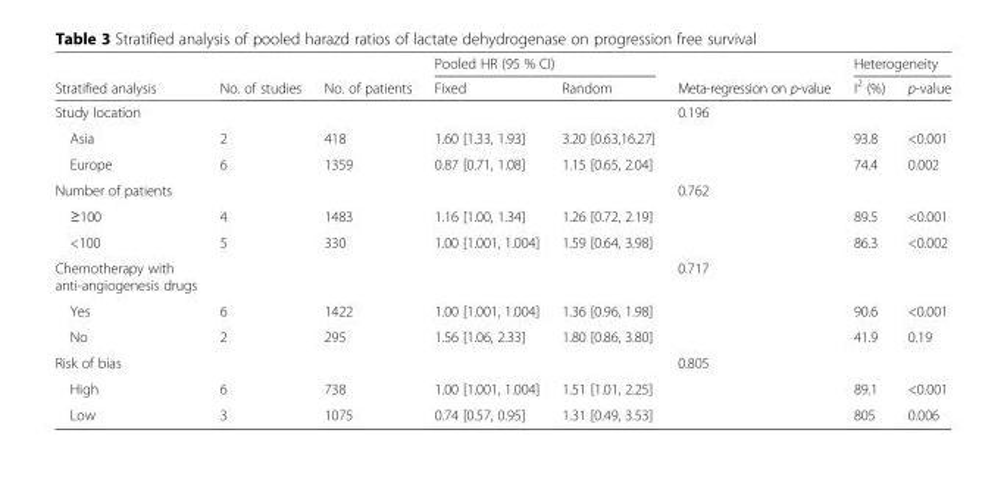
<table><thead><tr><td rowspan="2">Stratified analysis</td><td rowspan="2">No. of studies</td><td rowspan="2">No. of patients</td><td colspan="2">Pooled HR (95 % CI)</td><td rowspan="2">Meta-regression on p-value</td><td colspan="2">Heterogeneity</td></tr><tr><td>Fixed</td><td>Random</td><td>I<sup>2</sup> (%)</td><td>p-value</td></tr></thead><tbody><tr><td>Study location</td><td></td><td></td><td></td><td></td><td>0.196</td><td></td><td></td></tr><tr><td>Asia</td><td>2</td><td>418</td><td>1.60 [1.33, 1.93]</td><td>3.20 [0.63,16.27]</td><td></td><td>93.8</td><td>&lt;0.001</td></tr><tr><td>Europe</td><td>6</td><td>1359</td><td>0.87 [0.71, 1.08]</td><td>1.15 [0.65, 2.04]</td><td></td><td>74.4</td><td>0.002</td></tr><tr><td>Number of patients</td><td></td><td></td><td></td><td></td><td>0.762</td><td></td><td></td></tr><tr><td>≥100</td><td>4</td><td>1483</td><td>1.16 [1.00, 1.34]</td><td>1.26 [0.72, 2.19]</td><td></td><td>89.5</td><td>&lt;0.001</td></tr><tr><td>&lt;100</td><td>5</td><td>330</td><td>1.00 [1.001, 1.004]</td><td>1.59 [0.64, 3.98]</td><td></td><td>86.3</td><td>&lt;0.002</td></tr><tr><td>Chemotherapy with anti-angiogenesis drugs</td><td></td><td></td><td></td><td></td><td>0.717</td><td></td><td></td></tr><tr><td>Yes</td><td>6</td><td>1422</td><td>1.00 [1.001, 1.004]</td><td>1.36 [0.96, 1.98]</td><td></td><td>90.6</td><td>&lt;0.001</td></tr><tr><td>No</td><td>2</td><td>295</td><td>1.56 [1.06, 2.33]</td><td>1.80 [0.86, 3.80]</td><td></td><td>41.9</td><td>0.19</td></tr><tr><td>Risk of bias</td><td></td><td></td><td></td><td></td><td>0.805</td><td></td><td></td></tr><tr><td>High</td><td>6</td><td>738</td><td>1.00 [1.001, 1.004]</td><td>1.51 [1.01, 2.25]</td><td></td><td>89.1</td><td>&lt;0.001</td></tr><tr><td>Low</td><td>3</td><td>1075</td><td>0.74 [0.57, 0.95]</td><td>1.31 [0.49, 3.53]</td><td></td><td>805</td><td>0.006</td></tr></tbody></table>